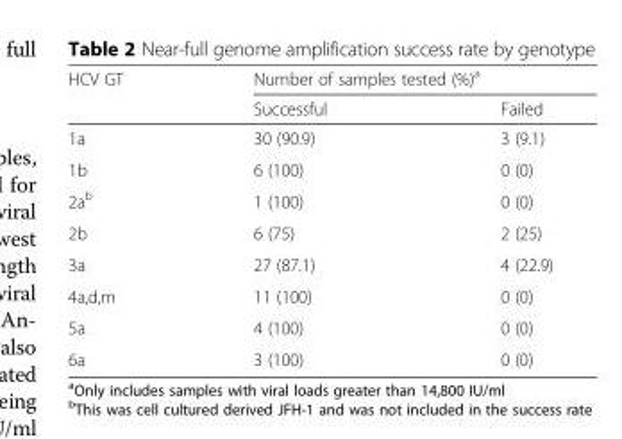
<table><thead><tr><td rowspan="2">HCV GT</td><td colspan="2">Number of samples tested (%)<sup>a</sup></td></tr><tr><td>Successful</td><td>Failed</td></tr></thead><tbody><tr><td>1a</td><td>30 (90.9)</td><td>3 (9.1)</td></tr><tr><td>1b</td><td>6 (100)</td><td>0 (0)</td></tr><tr><td>2a<sup>b</sup></td><td>1 (100)</td><td>0 (0)</td></tr><tr><td>2b</td><td>6 (75)</td><td>2 (25)</td></tr><tr><td>3a</td><td>27 (87.1)</td><td>4 (22.9)</td></tr><tr><td>4a,d,m</td><td>11 (100)</td><td>0 (0)</td></tr><tr><td>5a</td><td>4 (100)</td><td>0 (0)</td></tr><tr><td>6a</td><td>3 (100)</td><td>0 (0)</td></tr></tbody></table>